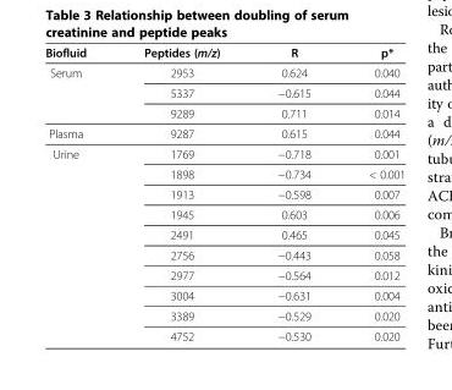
<table><thead><tr><td>Biofluid</td><td>Peptides (m/z)</td><td>R</td><td>p*</td></tr></thead><tbody><tr><td rowspan="3">Serum</td><td>2953</td><td>0.624</td><td>0.040</td></tr><tr><td>5337</td><td>−0.615</td><td>0.044</td></tr><tr><td>9289</td><td>0.711</td><td>0.014</td></tr><tr><td>Plasma</td><td>9287</td><td>0.615</td><td>0.044</td></tr><tr><td rowspan="10">Urine</td><td>1769</td><td>−0.718</td><td>0.001</td></tr><tr><td>1898</td><td>−0.734</td><td>&lt; 0.001</td></tr><tr><td>1913</td><td>−0.598</td><td>0.007</td></tr><tr><td>1945</td><td>0.603</td><td>0.006</td></tr><tr><td>2491</td><td>0.465</td><td>0.045</td></tr><tr><td>2756</td><td>−0.443</td><td>0.058</td></tr><tr><td>2977</td><td>−0.564</td><td>0.012</td></tr><tr><td>3004</td><td>−0.631</td><td>0.004</td></tr><tr><td>3389</td><td>−0.529</td><td>0.020</td></tr><tr><td>4752</td><td>−0.530</td><td>0.020</td></tr></tbody></table>